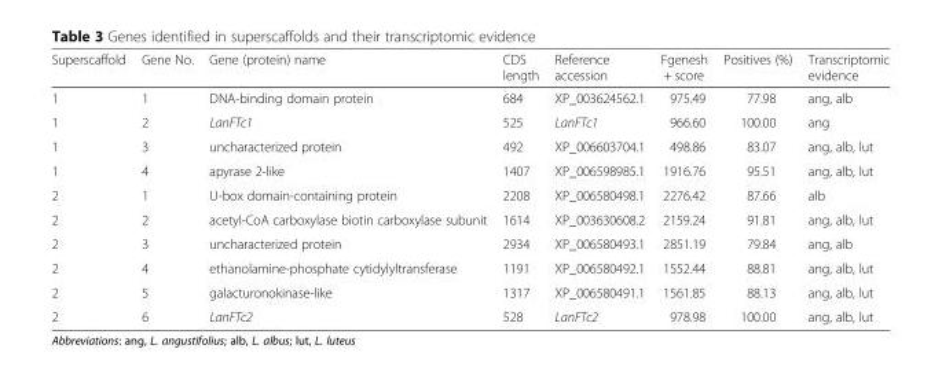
<table><thead><tr><td>Superscaffold</td><td>Gene No.</td><td>Gene (protein) name</td><td>CDS length</td><td>Reference accession</td><td>Fgenesh + score</td><td>Positives (%)</td><td>Transcriptomic evidence</td></tr></thead><tbody><tr><td>1</td><td>1</td><td>DNA-binding domain protein</td><td>684</td><td>XP_003624562.1</td><td>975.49</td><td>77.98</td><td>ang, alb</td></tr><tr><td>1</td><td>2</td><td>LanFTc1</td><td>525</td><td>LanFTc1</td><td>966.60</td><td>100.00</td><td>ang</td></tr><tr><td>1</td><td>3</td><td>uncharacterized protein</td><td>492</td><td>XP_006603704.1</td><td>498.86</td><td>83.07</td><td>ang, alb, lut</td></tr><tr><td>1</td><td>4</td><td>apyrase 2-like</td><td>1407</td><td>XP_006598985.1</td><td>1916.76</td><td>95.51</td><td>ang, alb, lut</td></tr><tr><td>2</td><td>1</td><td>U-box domain-containing protein</td><td>2208</td><td>XP_006580498.1</td><td>2276.42</td><td>87.66</td><td>alb</td></tr><tr><td>2</td><td>2</td><td>acetyl-CoA carboxylase biotin carboxylase subunit</td><td>1614</td><td>XP_003630608.2</td><td>2159.24</td><td>91.81</td><td>ang, alb, lut</td></tr><tr><td>2</td><td>3</td><td>uncharacterized protein</td><td>2934</td><td>XP_006580493.1</td><td>2851.19</td><td>79.84</td><td>ang, alb</td></tr><tr><td>2</td><td>4</td><td>ethanolamine-phosphate cytidylyltransferase</td><td>1191</td><td>XP_006580492.1</td><td>1552.44</td><td>88.81</td><td>ang, alb, lut</td></tr><tr><td>2</td><td>5</td><td>galacturonokinase-like</td><td>1317</td><td>XP_006580491.1</td><td>1561.85</td><td>88.13</td><td>ang, alb, lut</td></tr><tr><td>2</td><td>6</td><td>LanFTc2</td><td>528</td><td>LanFTc2</td><td>978.98</td><td>100.00</td><td>ang, alb, lut</td></tr></tbody></table>